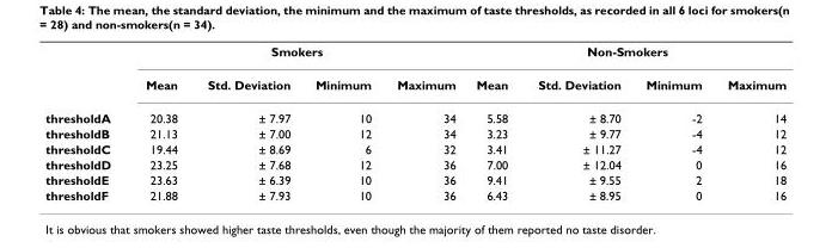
<table><thead><tr><td rowspan="2"></td><td colspan="4">Smokers</td><td colspan="4">Non-Smokers</td></tr><tr><td>Mean</td><td>Std. Deviation</td><td>Minimum</td><td>Maximum</td><td>Mean</td><td>Std. Deviation</td><td>Minimum</td><td>Maximum</td></tr></thead><tbody><tr><td>thresholdA</td><td>20.38</td><td>± 7.97</td><td>10</td><td>34</td><td>5.58</td><td>± 8.70</td><td>-2</td><td>14</td></tr><tr><td>thresholdB</td><td>21.13</td><td>± 7.00</td><td>12</td><td>34</td><td>3.23</td><td>± 9.77</td><td>-4</td><td>12</td></tr><tr><td>thresholdC</td><td>19.44</td><td>± 8.69</td><td>6</td><td>32</td><td>3.41</td><td>± 11.27</td><td>-4</td><td>12</td></tr><tr><td>thresholdD</td><td>23.25</td><td>± 7.68</td><td>12</td><td>36</td><td>7.00</td><td>± 12.04</td><td>0</td><td>16</td></tr><tr><td>thresholdE</td><td>23.63</td><td>± 6.39</td><td>10</td><td>36</td><td>9.41</td><td>± 9.55</td><td>2</td><td>18</td></tr><tr><td>thresholdF</td><td>21.88</td><td>± 7.93</td><td>10</td><td>36</td><td>6.43</td><td>± 8.95</td><td>0</td><td>16</td></tr></tbody></table>